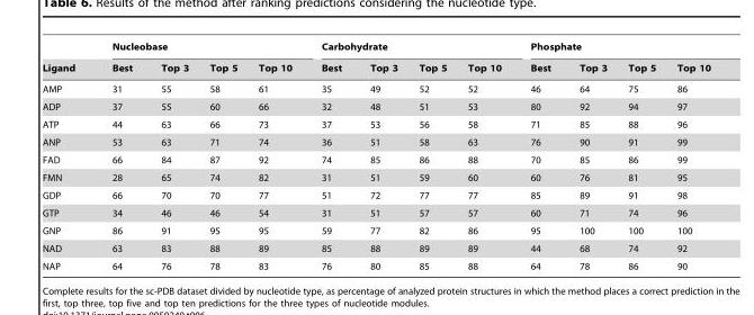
<table><thead><tr><td rowspan="2">Ligand</td><td colspan="4">Nucleobase</td><td colspan="4">Carbohydrate</td><td colspan="4">Phosphate</td></tr><tr><td>Best</td><td>Top 3</td><td>Top 5</td><td>Top 10</td><td>Best</td><td>Top 3</td><td>Top 5</td><td>Top 10</td><td>Best</td><td>Top 3</td><td>Top 5</td><td>Top 10</td></tr></thead><tbody><tr><td>AMP</td><td>31</td><td>55</td><td>58</td><td>61</td><td>35</td><td>49</td><td>52</td><td>52</td><td>46</td><td>64</td><td>75</td><td>86</td></tr><tr><td>ADP</td><td>37</td><td>55</td><td>60</td><td>66</td><td>32</td><td>48</td><td>51</td><td>53</td><td>80</td><td>92</td><td>94</td><td>97</td></tr><tr><td>ATP</td><td>44</td><td>63</td><td>66</td><td>73</td><td>37</td><td>53</td><td>56</td><td>58</td><td>71</td><td>85</td><td>88</td><td>96</td></tr><tr><td>ANP</td><td>53</td><td>63</td><td>71</td><td>74</td><td>36</td><td>51</td><td>58</td><td>63</td><td>76</td><td>90</td><td>91</td><td>99</td></tr><tr><td>FAD</td><td>66</td><td>84</td><td>87</td><td>92</td><td>74</td><td>85</td><td>86</td><td>88</td><td>70</td><td>85</td><td>86</td><td>99</td></tr><tr><td>FMN</td><td>28</td><td>65</td><td>74</td><td>82</td><td>31</td><td>51</td><td>59</td><td>60</td><td>60</td><td>76</td><td>81</td><td>95</td></tr><tr><td>GDP</td><td>66</td><td>70</td><td>70</td><td>77</td><td>51</td><td>72</td><td>77</td><td>77</td><td>85</td><td>89</td><td>91</td><td>98</td></tr><tr><td>GTP</td><td>34</td><td>46</td><td>46</td><td>54</td><td>31</td><td>51</td><td>57</td><td>57</td><td>60</td><td>71</td><td>74</td><td>96</td></tr><tr><td>GNP</td><td>86</td><td>91</td><td>95</td><td>95</td><td>59</td><td>77</td><td>82</td><td>86</td><td>95</td><td>100</td><td>100</td><td>100</td></tr><tr><td>NAD</td><td>63</td><td>83</td><td>88</td><td>89</td><td>85</td><td>88</td><td>89</td><td>89</td><td>44</td><td>68</td><td>74</td><td>92</td></tr><tr><td>NAP</td><td>64</td><td>76</td><td>78</td><td>83</td><td>76</td><td>80</td><td>85</td><td>88</td><td>64</td><td>78</td><td>86</td><td>90</td></tr></tbody></table>